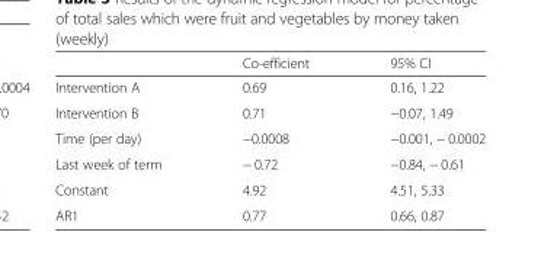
<table><thead><tr><td></td><td>Co-efficient</td><td>95% CI</td></tr></thead><tbody><tr><td>Intervention A</td><td>0.69</td><td>0.16, 1.22</td></tr><tr><td>Intervention B</td><td>0.71</td><td>−0.07, 1.49</td></tr><tr><td>Time (per day)</td><td>−0.0008</td><td>−0.001, − 0.0002</td></tr><tr><td>Last week of term</td><td>− 0.72</td><td>−0.84, − 0.61</td></tr><tr><td>Constant</td><td>4.92</td><td>4.51, 5.33</td></tr><tr><td>AR1</td><td>0.77</td><td>0.66, 0.87</td></tr></tbody></table>